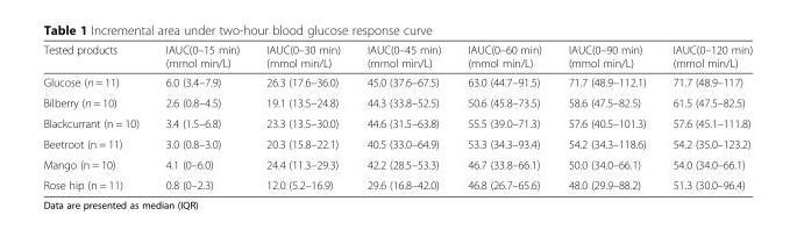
<table><thead><tr><td>Tested products</td><td>IAUC(0–15 min) (mmol min/L)</td><td>IAUC(0–30 min) (mmol min/L)</td><td>IAUC(0–45 min) (mmol min/L)</td><td>IAUC(0–60 min) (mmol min/L)</td><td>IAUC(0–90 min) (mmol min/L)</td><td>IAUC(0–120 min) (mmol min/L)</td></tr></thead><tbody><tr><td>Glucose (n = 11)</td><td>6.0 (3.4–7.9)</td><td>26.3 (17.6–36.0)</td><td>45.0 (37.6–67.5)</td><td>63.0 (44.7–91.5)</td><td>71.7 (48.9–112.1)</td><td>71.7 (48.9–117)</td></tr><tr><td>Bilberry (n = 10)</td><td>2.6 (0.8–4.5)</td><td>19.1 (13.5–24.8)</td><td>44.3 (33.8–52.5)</td><td>50.6 (45.8–73.5)</td><td>58.6 (47.5–82.5)</td><td>61.5 (47.5–82.5)</td></tr><tr><td>Blackcurrant (n = 10)</td><td>3.4 (1.5–6.8)</td><td>23.3 (13.5–30.0)</td><td>44.6 (31.5–63.8)</td><td>55.5 (39.0–71.3)</td><td>57.6 (40.5–101.3)</td><td>57.6 (45.1–111.8)</td></tr><tr><td>Beetroot (n = 11)</td><td>3.0 (0.8–3.0)</td><td>20.3 (15.8–22.1)</td><td>40.5 (33.0–64.9)</td><td>53.3 (34.3–93.4)</td><td>54.2 (34.3–118.6)</td><td>54.2 (35.0–123.2)</td></tr><tr><td>Mango (n = 10)</td><td>4.1 (0–6.0)</td><td>24.4 (11.3–29.3)</td><td>42.2 (28.5–53.3)</td><td>46.7 (33.8–66.1)</td><td>50.0 (34.0–66.1)</td><td>54.0 (34.0–66.1)</td></tr><tr><td>Rose hip (n = 11)</td><td>0.8 (0–2.3)</td><td>12.0 (5.2–16.9)</td><td>29.6 (16.8–42.0)</td><td>46.8 (26.7–65.6)</td><td>48.0 (29.9–88.2)</td><td>51.3 (30.0–96.4)</td></tr></tbody></table>